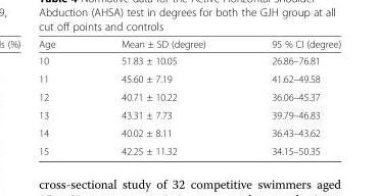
<table><thead><tr><td>Age</td><td>Mean ± SD (degree)</td><td>95 % CI (degree)</td></tr></thead><tbody><tr><td>10</td><td>51.83 ± 10.05</td><td>26.86–76.81</td></tr><tr><td>11</td><td>45.60 ± 7.19</td><td>41.62–49.58</td></tr><tr><td>12</td><td>40.71 ± 10.22</td><td>36.06–45.37</td></tr><tr><td>13</td><td>43.31 ± 7.73</td><td>39.79–46.83</td></tr><tr><td>14</td><td>40.02 ± 8.11</td><td>36.43–43.62</td></tr><tr><td>15</td><td>42.25 ± 11.32</td><td>34.15–50.35</td></tr></tbody></table>